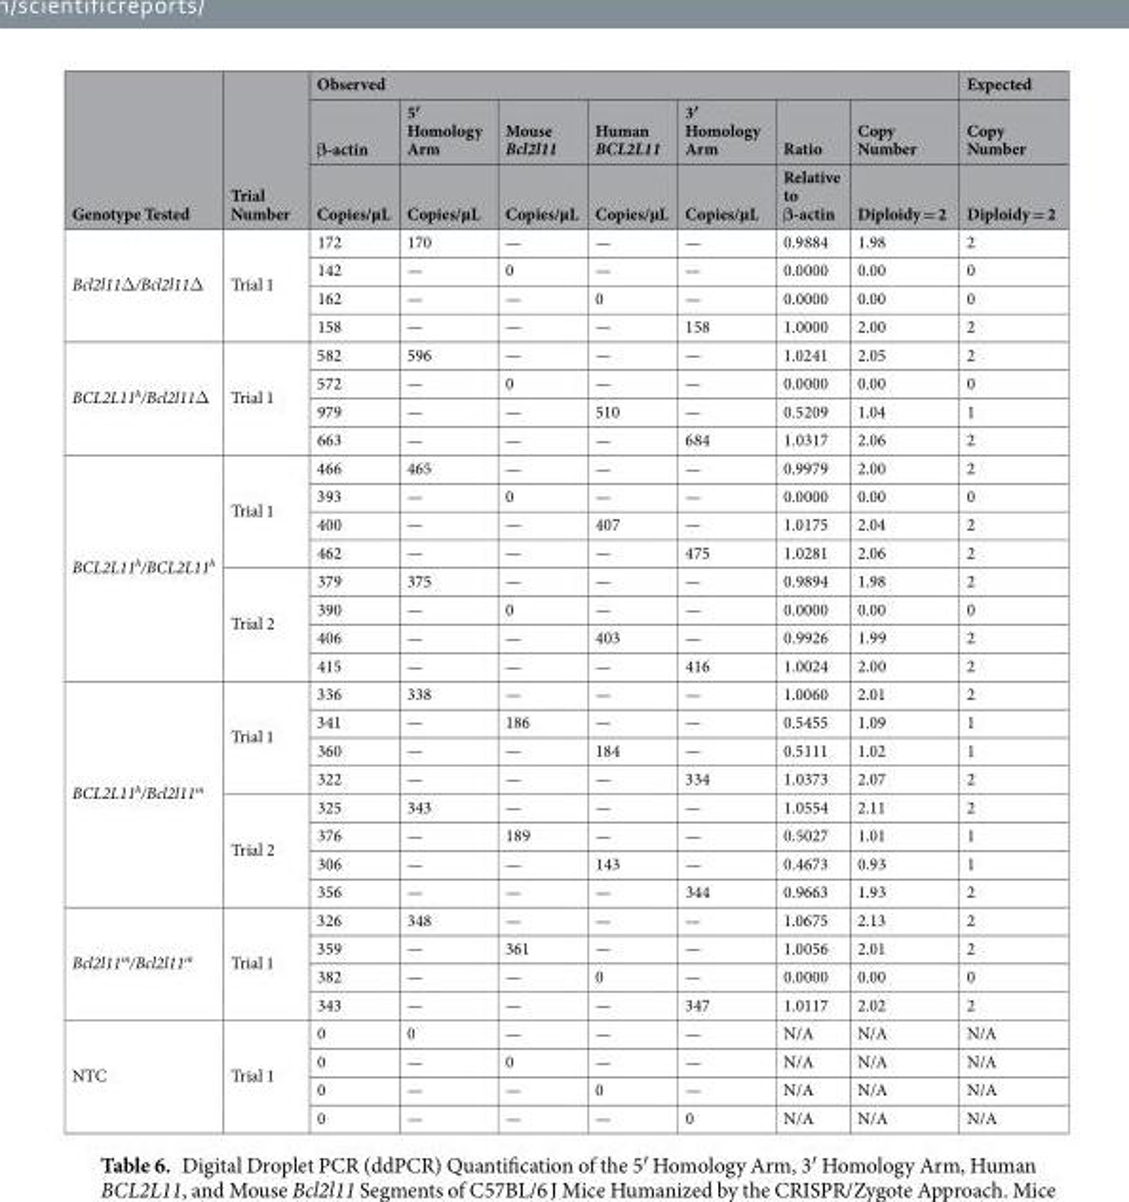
<table><thead><tr><td rowspan="3">Genotype Tested</td><td rowspan="3">Trial Number</td><td colspan="7">Observed</td><td rowspan="3">Expected Copy Number Diploidy = 2</td></tr><tr><td rowspan="2">β-actin Copies/µL</td><td rowspan="2">5′ Homology Arm Copies/µL</td><td rowspan="2">Mouse Bcl2l11 Copies/µL</td><td rowspan="2">Human BCL2L11 Copies/µL</td><td rowspan="2">3′ Homology Arm Copies/µL</td><td rowspan="2">Ratio Relative to β-actin</td><td rowspan="2">Copy Number Diploidy = 2</td></tr><tr></tr></thead><tbody><tr><td rowspan="4">Bcl2l11Δ/Bcl2l11Δ</td><td rowspan="4">Trial 1</td><td>172</td><td>170</td><td>—</td><td>—</td><td>—</td><td>0.9884</td><td>1.98</td><td>2</td></tr><tr><td>142</td><td>—</td><td>0</td><td>—</td><td>—</td><td>0.0000</td><td>0.00</td><td>0</td></tr><tr><td>162</td><td>—</td><td>—</td><td>0</td><td>—</td><td>0.0000</td><td>0.00</td><td>0</td></tr><tr><td>158</td><td>—</td><td>—</td><td>—</td><td>158</td><td>1.0000</td><td>2.00</td><td>2</td></tr><tr><td rowspan="4">BCL2L11<sup>h</sup>/Bcl2l11Δ</td><td rowspan="4">Trial 1</td><td>582</td><td>596</td><td>—</td><td>—</td><td>—</td><td>1.0241</td><td>2.05</td><td>2</td></tr><tr><td>572</td><td>—</td><td>0</td><td>—</td><td>—</td><td>0.0000</td><td>0.00</td><td>0</td></tr><tr><td>979</td><td>—</td><td>—</td><td>510</td><td>—</td><td>0.5209</td><td>1.04</td><td>1</td></tr><tr><td>663</td><td>—</td><td>—</td><td>—</td><td>684</td><td>1.0317</td><td>2.06</td><td>2</td></tr><tr><td rowspan="8">BCL2L11<sup>h</sup>/BCL2L11<sup>h</sup></td><td rowspan="4">Trial 1</td><td>466</td><td>465</td><td>—</td><td>—</td><td>—</td><td>0.9979</td><td>2.00</td><td>2</td></tr><tr><td>393</td><td>—</td><td>0</td><td>—</td><td>—</td><td>0.0000</td><td>0.00</td><td>0</td></tr><tr><td>400</td><td>—</td><td>—</td><td>407</td><td>—</td><td>1.0175</td><td>2.04</td><td>2</td></tr><tr><td>462</td><td>—</td><td>—</td><td>—</td><td>475</td><td>1.0281</td><td>2.06</td><td>2</td></tr><tr><td rowspan="4">Trial 2</td><td>379</td><td>375</td><td>—</td><td>—</td><td>—</td><td>0.9894</td><td>1.98</td><td>2</td></tr><tr><td>390</td><td>—</td><td>0</td><td>—</td><td>—</td><td>0.0000</td><td>0.00</td><td>0</td></tr><tr><td>406</td><td>—</td><td>—</td><td>403</td><td>—</td><td>0.9926</td><td>1.99</td><td>2</td></tr><tr><td>415</td><td>—</td><td>—</td><td>—</td><td>416</td><td>1.0024</td><td>2.00</td><td>2</td></tr><tr><td rowspan="8">BCL2L11<sup>h</sup>/Bcl2l11<sup>m</sup></td><td rowspan="4">Trial 1</td><td>336</td><td>338</td><td>—</td><td>—</td><td>—</td><td>1.0060</td><td>2.01</td><td>2</td></tr><tr><td>341</td><td>—</td><td>186</td><td>—</td><td>—</td><td>0.5455</td><td>1.09</td><td>1</td></tr><tr><td>360</td><td>—</td><td>—</td><td>184</td><td>—</td><td>0.5111</td><td>1.02</td><td>1</td></tr><tr><td>322</td><td>—</td><td>—</td><td>—</td><td>334</td><td>1.0373</td><td>2.07</td><td>2</td></tr><tr><td rowspan="4">Trial 2</td><td>325</td><td>343</td><td>—</td><td>—</td><td>—</td><td>1.0554</td><td>2.11</td><td>2</td></tr><tr><td>376</td><td>—</td><td>189</td><td>—</td><td>—</td><td>0.5027</td><td>1.01</td><td>1</td></tr><tr><td>306</td><td>—</td><td>—</td><td>143</td><td>—</td><td>0.4673</td><td>0.93</td><td>1</td></tr><tr><td>356</td><td>—</td><td>—</td><td>—</td><td>344</td><td>0.9663</td><td>1.93</td><td>2</td></tr><tr><td rowspan="4">Bcl2l11<sup>m</sup>/Bcl2l11<sup>m</sup></td><td rowspan="4">Trial 1</td><td>326</td><td>348</td><td>—</td><td>—</td><td>—</td><td>1.0675</td><td>2.13</td><td>2</td></tr><tr><td>359</td><td>—</td><td>361</td><td>—</td><td>—</td><td>1.0056</td><td>2.01</td><td>2</td></tr><tr><td>382</td><td>—</td><td>—</td><td>0</td><td>—</td><td>0.0000</td><td>0.00</td><td>0</td></tr><tr><td>343</td><td>—</td><td>—</td><td>—</td><td>347</td><td>1.0117</td><td>2.02</td><td>2</td></tr><tr><td rowspan="4">NTC</td><td rowspan="4">Trial 1</td><td>0</td><td>0</td><td>—</td><td>—</td><td>—</td><td>N/A</td><td>N/A</td><td>N/A</td></tr><tr><td>0</td><td>—</td><td>0</td><td>—</td><td>—</td><td>N/A</td><td>N/A</td><td>N/A</td></tr><tr><td>0</td><td>—</td><td>—</td><td>0</td><td>—</td><td>N/A</td><td>N/A</td><td>N/A</td></tr><tr><td>0</td><td>—</td><td>—</td><td>—</td><td>0</td><td>N/A</td><td>N/A</td><td>N/A</td></tr></tbody></table>